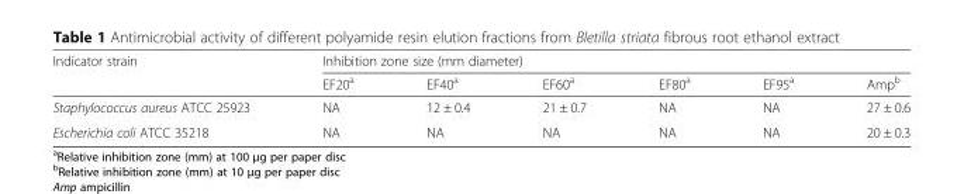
<table><thead><tr><td rowspan="2">Indicator strain</td><td colspan="6">Inhibition zone size (mm diameter)</td></tr><tr><td>EF20<sup>a</sup></td><td>EF40<sup>a</sup></td><td>EF60<sup>a</sup></td><td>EF80<sup>a</sup></td><td>EF95<sup>a</sup></td><td>Amp<sup>b</sup></td></tr></thead><tbody><tr><td>Staphylococcus aureus ATCC 25923</td><td>NA</td><td>12 ± 0.4</td><td>21 ± 0.7</td><td>NA</td><td>NA</td><td>27 ± 0.6</td></tr><tr><td>Escherichia coli ATCC 35218</td><td>NA</td><td>NA</td><td>NA</td><td>NA</td><td>NA</td><td>20 ± 0.3</td></tr></tbody></table>